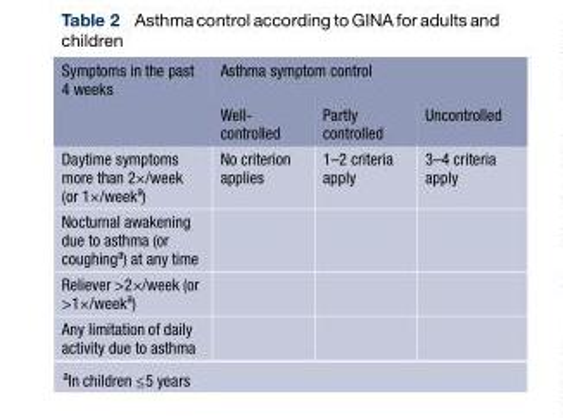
<table><thead><tr><td rowspan="2">Symptoms in the past 4 weeks</td><td colspan="3">Asthma symptom control</td></tr><tr><td>Well- controlled</td><td>Partly controlled</td><td>Uncontrolled</td></tr></thead><tbody><tr><td>Daytime symptoms more than 2×/week (or 1×/week<sup>a</sup>)</td><td>No criterion applies</td><td>1–2 criteria apply</td><td>3–4 criteria apply</td></tr><tr><td colspan="4">Nocturnal awakening due to asthma (or coughing<sup>a</sup>) at any time</td></tr><tr><td colspan="4">Reliever &gt;2×/week (or &gt;1×/week<sup>a</sup>)</td></tr><tr><td>Any limitation of daily activity due to asthma</td><td></td><td></td><td></td></tr></tbody></table>